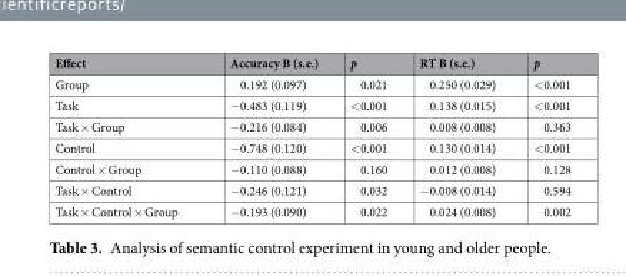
<table><thead><tr><td>Effect</td><td>Accuracy B (s.e.)</td><td>p</td><td>RT B (s.e.)</td><td>p</td></tr></thead><tbody><tr><td>Group</td><td>0.192 (0.097)</td><td>0.021</td><td>0.250 (0.029)</td><td>&lt;0.001</td></tr><tr><td>Task</td><td>−0.483 (0.119)</td><td>&lt;0.001</td><td>0.138 (0.015)</td><td>&lt;0.001</td></tr><tr><td>Task × Group</td><td>−0.216 (0.084)</td><td>0.006</td><td>0.008 (0.008)</td><td>0.363</td></tr><tr><td>Control</td><td>−0.748 (0.120)</td><td>&lt;0.001</td><td>0.130 (0.014)</td><td>&lt;0.001</td></tr><tr><td>Control × Group</td><td>−0.110 (0.088)</td><td>0.160</td><td>0.012 (0.008)</td><td>0.128</td></tr><tr><td>Task × Control</td><td>−0.246 (0.121)</td><td>0.032</td><td>−0.008 (0.014)</td><td>0.594</td></tr><tr><td>Task × Control × Group</td><td>−0.193 (0.090)</td><td>0.022</td><td>0.024 (0.008)</td><td>0.002</td></tr></tbody></table>